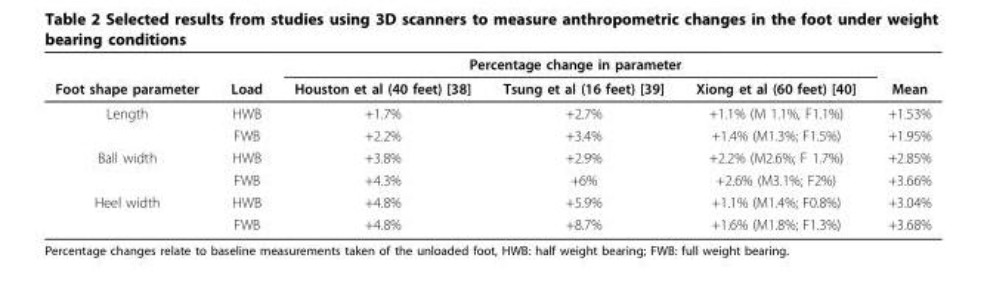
<table><thead><tr><td rowspan="2">Foot shape parameter</td><td rowspan="2">Load</td><td colspan="3">Percentage change in parameter</td><td rowspan="2">Mean</td></tr><tr><td>Houston et al (40 feet) [38]</td><td>Tsung et al (16 feet) [39]</td><td>Xiong et al (60 feet) [40]</td></tr></thead><tbody><tr><td rowspan="2">Length</td><td>HWB</td><td>+1.7%</td><td>+2.7%</td><td>+1.1% (M 1.1%, F1.1%)</td><td>+1.53%</td></tr><tr><td>FWB</td><td>+2.2%</td><td>+3.4%</td><td>+1.4% (M1.3%; F1.5%)</td><td>+1.95%</td></tr><tr><td rowspan="2">Ball width</td><td>HWB</td><td>+3.8%</td><td>+2.9%</td><td>+2.2% (M2.6%; F 1.7%)</td><td>+2.85%</td></tr><tr><td>FWB</td><td>+4.3%</td><td>+6%</td><td>+2.6% (M3.1%; F2%)</td><td>+3.66%</td></tr><tr><td rowspan="2">Heel width</td><td>HWB</td><td>+4.8%</td><td>+5.9%</td><td>+1.1% (M1.4%; F0.8%)</td><td>+3.04%</td></tr><tr><td>FWB</td><td>+4.8%</td><td>+8.7%</td><td>+1.6% (M1.8%; F1.3%)</td><td>+3.68%</td></tr></tbody></table>